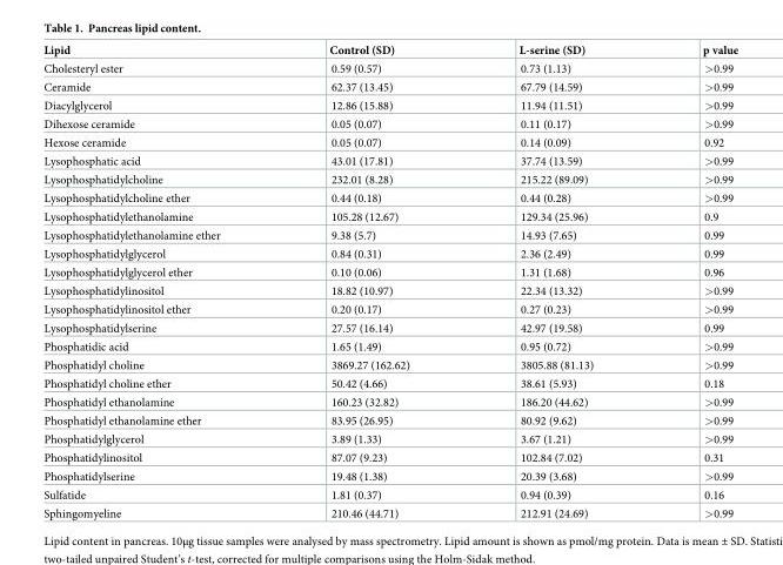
<table><thead><tr><td>Lipid</td><td>Control (SD)</td><td>L-serine (SD)</td><td>p value</td></tr></thead><tbody><tr><td>Cholesteryl ester</td><td>0.59 (0.57)</td><td>0.73 (1.13)</td><td>&gt;0.99</td></tr><tr><td>Ceramide</td><td>62.37 (13.45)</td><td>67.79 (14.59)</td><td>&gt;0.99</td></tr><tr><td>Diacylglycerol</td><td>12.86 (15.88)</td><td>11.94 (11.51)</td><td>&gt;0.99</td></tr><tr><td>Dihexose ceramide</td><td>0.05 (0.07)</td><td>0.11 (0.17)</td><td>&gt;0.99</td></tr><tr><td>Hexose ceramide</td><td>0.05 (0.07)</td><td>0.14 (0.09)</td><td>0.92</td></tr><tr><td>Lysophosphatic acid</td><td>43.01 (17.81)</td><td>37.74 (13.59)</td><td>&gt;0.99</td></tr><tr><td>Lysophosphatidylcholine</td><td>232.01 (8.28)</td><td>215.22 (89.09)</td><td>&gt;0.99</td></tr><tr><td>Lysophosphatidylcholine ether</td><td>0.44 (0.18)</td><td>0.44 (0.28)</td><td>&gt;0.99</td></tr><tr><td>Lysophosphatidylethanolamine</td><td>105.28 (12.67)</td><td>129.34 (25.96)</td><td>0.9</td></tr><tr><td>Lysophosphatidylethanolamine ether</td><td>9.38 (5.7)</td><td>14.93 (7.65)</td><td>0.99</td></tr><tr><td>Lysophosphatidylglycerol</td><td>0.84 (0.31)</td><td>2.36 (2.49)</td><td>0.99</td></tr><tr><td>Lysophosphatidylglycerol ether</td><td>0.10 (0.06)</td><td>1.31 (1.68)</td><td>0.96</td></tr><tr><td>Lysophosphatidylinositol</td><td>18.82 (10.97)</td><td>22.34 (13.32)</td><td>&gt;0.99</td></tr><tr><td>Lysophosphatidylinositol ether</td><td>0.20 (0.17)</td><td>0.27 (0.23)</td><td>&gt;0.99</td></tr><tr><td>Lysophosphatidylserine</td><td>27.57 (16.14)</td><td>42.97 (19.58)</td><td>0.99</td></tr><tr><td>Phosphatidic acid</td><td>1.65 (1.49)</td><td>0.95 (0.72)</td><td>&gt;0.99</td></tr><tr><td>Phosphatidyl choline</td><td>3869.27 (162.62)</td><td>3805.88 (81.13)</td><td>&gt;0.99</td></tr><tr><td>Phosphatidyl choline ether</td><td>50.42 (4.66)</td><td>38.61 (5.93)</td><td>0.18</td></tr><tr><td>Phosphatidyl ethanolamine</td><td>160.23 (32.82)</td><td>186.20 (44.62)</td><td>&gt;0.99</td></tr><tr><td>Phosphatidyl ethanolamine ether</td><td>83.95 (26.95)</td><td>80.92 (9.62)</td><td>&gt;0.99</td></tr><tr><td>Phosphatidylglycerol</td><td>3.89 (1.33)</td><td>3.67 (1.21)</td><td>&gt;0.99</td></tr><tr><td>Phosphatidylinositol</td><td>87.07 (9.23)</td><td>102.84 (7.02)</td><td>0.31</td></tr><tr><td>Phosphatidylserine</td><td>19.48 (1.38)</td><td>20.39 (3.68)</td><td>&gt;0.99</td></tr><tr><td>Sulfatide</td><td>1.81 (0.37)</td><td>0.94 (0.39)</td><td>0.16</td></tr><tr><td>Sphingomyeline</td><td>210.46 (44.71)</td><td>212.91 (24.69)</td><td>&gt;0.99</td></tr></tbody></table>